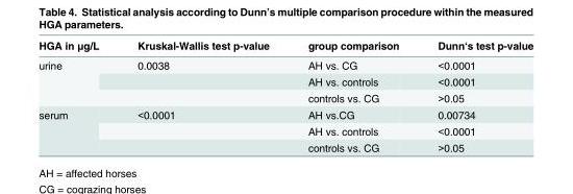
<table><thead><tr><td>HGA in μg/L</td><td>Kruskal-Wallis test p-value</td><td>group comparison</td><td>Dunn‘s test p-value</td></tr></thead><tbody><tr><td rowspan="3">urine</td><td>0.0038</td><td>AH vs. CG</td><td>&lt;0.0001</td></tr><tr><td></td><td>AH vs. controls</td><td>&lt;0.0001</td></tr><tr><td></td><td>controls vs. CG</td><td>&gt;0.05</td></tr><tr><td rowspan="3">serum</td><td>&lt;0.0001</td><td>AH vs.CG</td><td>0.00734</td></tr><tr><td></td><td>AH vs. controls</td><td>&lt;0.0001</td></tr><tr><td></td><td>controls vs. CG</td><td>&gt;0.05</td></tr></tbody></table>